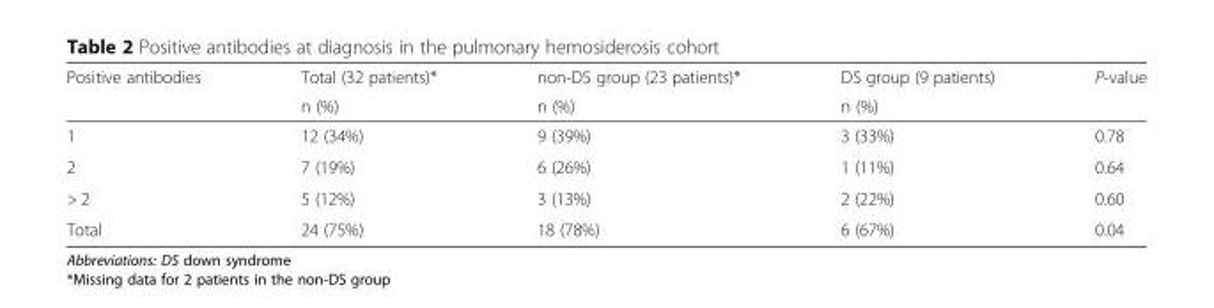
<table><thead><tr><td rowspan="2">Positive antibodies</td><td rowspan="2">Total (32 patients)* n (%)</td><td rowspan="2">non-DS group (23 patients)* n (%)</td><td rowspan="2">DS group (9 patients) n (%)</td><td rowspan="2">P-value</td></tr><tr></tr></thead><tbody><tr><td>1</td><td>12 (34%)</td><td>9 (39%)</td><td>3 (33%)</td><td>0.78</td></tr><tr><td>2</td><td>7 (19%)</td><td>6 (26%)</td><td>1 (11%)</td><td>0.64</td></tr><tr><td>&gt; 2</td><td>5 (12%)</td><td>3 (13%)</td><td>2 (22%)</td><td>0.60</td></tr><tr><td>Total</td><td>24 (75%)</td><td>18 (78%)</td><td>6 (67%)</td><td>0.04</td></tr></tbody></table>